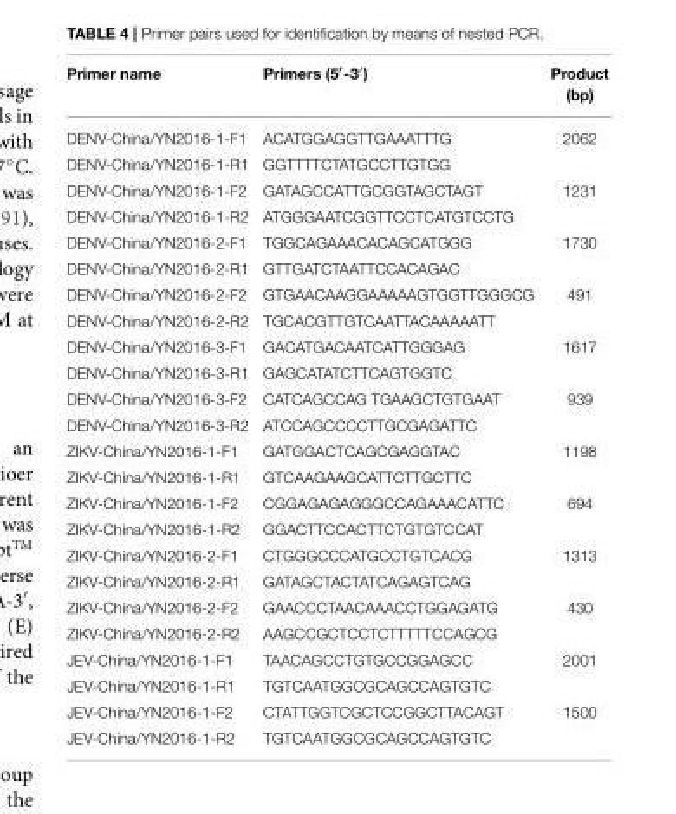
<table><thead><tr><td>Primer name</td><td>Primers (5′-3′)</td><td>Product (bp)</td></tr></thead><tbody><tr><td>DENV-China/YN2016-1-F1</td><td>ACATGGAGGTTGAAATTTG</td><td>2062</td></tr><tr><td>DENV-China/YN2016-1-R1</td><td>GGTTTTCTATGCCTTGTGG</td><td></td></tr><tr><td>DENV-China/YN2016-1-F2</td><td>GATAGCCATTGCGGTAGCTAGT</td><td>1231</td></tr><tr><td>DENV-China/YN2016-1-R2</td><td>ATGGGAATCGGTTCCTCATGTCCTG</td><td></td></tr><tr><td>DENV-China/YN2016-2-F1</td><td>TGGCAGAAACACAGCATGGG</td><td>1730</td></tr><tr><td>DENV-China/YN2016-2-R1</td><td>GTTGATCTAATTCCACAGAC</td><td></td></tr><tr><td>DENV-China/YN2016-2-F2</td><td>GTGAACAAGGAAAAAGTGGTTGGGCG</td><td>491</td></tr><tr><td>DENV-China/YN2016-2-R2</td><td>TGCACGTTGTCAATTACAAAAATT</td><td></td></tr><tr><td>DENV-China/YN2016-3-F1</td><td>GACATGACAATCATTGGGAG</td><td>1617</td></tr><tr><td>DENV-China/YN2016-3-R1</td><td>GAGCATATCTTCAGTGGTC</td><td></td></tr><tr><td>DENV-China/YN2016-3-F2</td><td>CATCAGCCAG TGAAGCTGTGAAT</td><td>939</td></tr><tr><td>DENV-China/YN2016-3-R2</td><td>ATCCAGCCCCTTGCGAGATTC</td><td></td></tr><tr><td>ZIKV-China/YN2016-1-F1</td><td>GATGGACTCAGCGAGGTAC</td><td>1198</td></tr><tr><td>ZIKV-China/YN2016-1-R1</td><td>GTCAAGAAGCATTCTTGCTTC</td><td></td></tr><tr><td>ZIKV-China/YN2016-1-F2</td><td>CGGAGAGAGGGCCAGAAACATTC</td><td>694</td></tr><tr><td>ZIKV-China/YN2016-1-R2</td><td>GGACTTCCACTTCTGTGTCCAT</td><td></td></tr><tr><td>ZIKV-China/YN2016-2-F1</td><td>CTGGGCCCATGCCTGTCACG</td><td>1313</td></tr><tr><td>ZIKV-China/YN2016-2-R1</td><td>GATAGCTACTATCAGAGTCAG</td><td></td></tr><tr><td>ZIKV-China/YN2016-2-F2</td><td>GAACCCTAACAAACCTGGAGATG</td><td>430</td></tr><tr><td>ZIKV-China/YN2016-2-R2</td><td>AAGCCGCTCCTCTTTTTCCAGCG</td><td></td></tr><tr><td>JEV-China/YN2016-1-F1</td><td>TAACAGCCTGTGCCGGAGCC</td><td>2001</td></tr><tr><td>JEV-China/YN2016-1-R1</td><td>TGTCAATGGCGCAGCCAGTGTC</td><td></td></tr><tr><td>JEV-China/YN2016-1-F2</td><td>CTATTGGTCGCTCCGGCTTACAGT</td><td>1500</td></tr><tr><td>JEV-China/YN2016-1-R2</td><td>TGTCAATGGCGCAGCCAGTGTC</td><td></td></tr></tbody></table>